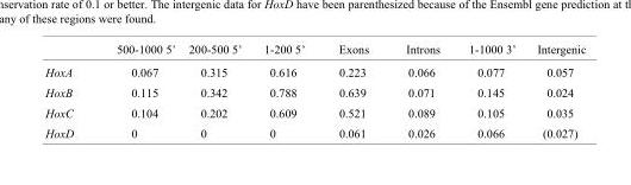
<table><thead><tr><td></td><td>500-1000 5’</td><td>200-500 5’</td><td>1-200 5’</td><td>Exons</td><td>Introns</td><td>1-1000 3’</td><td>Intergenic</td></tr></thead><tbody><tr><td>HoxA</td><td>0.067</td><td>0.315</td><td>0.616</td><td>0.223</td><td>0.066</td><td>0.077</td><td>0.057</td></tr><tr><td>HoxB</td><td>0.115</td><td>0.342</td><td>0.788</td><td>0.639</td><td>0.071</td><td>0.145</td><td>0.024</td></tr><tr><td>HoxC</td><td>0.104</td><td>0.202</td><td>0.609</td><td>0.521</td><td>0.089</td><td>0.105</td><td>0.035</td></tr><tr><td>HoxD</td><td>0</td><td>0</td><td>0</td><td>0.061</td><td>0.026</td><td>0.066</td><td>(0.027)</td></tr></tbody></table>